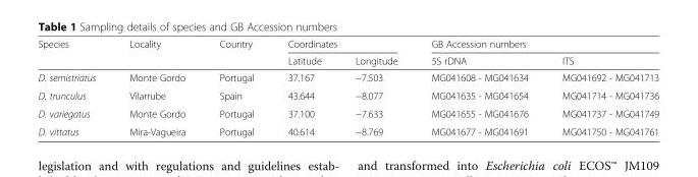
<table><thead><tr><td rowspan="2">Species</td><td rowspan="2">Locality</td><td rowspan="2">Country</td><td colspan="2">Coordinates</td><td colspan="2">GB Accession numbers</td></tr><tr><td>Latitude</td><td>Longitude</td><td>5S rDNA</td><td>ITS</td></tr></thead><tbody><tr><td>D. semistriatus</td><td>Monte Gordo</td><td>Portugal</td><td>37.167</td><td>−7.503</td><td>MG041608 - MG041634</td><td>MG041692 - MG041713</td></tr><tr><td>D. trunculus</td><td>Vilarrube</td><td>Spain</td><td>43.644</td><td>−8.077</td><td>MG041635 - MG041654</td><td>MG041714 - MG041736</td></tr><tr><td>D. variegatus</td><td>Monte Gordo</td><td>Portugal</td><td>37.100</td><td>−7.633</td><td>MG041655 - MG041676</td><td>MG041737 - MG041749</td></tr><tr><td>D. vittatus</td><td>Mira-Vagueira</td><td>Portugal</td><td>40.614</td><td>−8.769</td><td>MG041677 - MG041691</td><td>MG041750 - MG041761</td></tr></tbody></table>